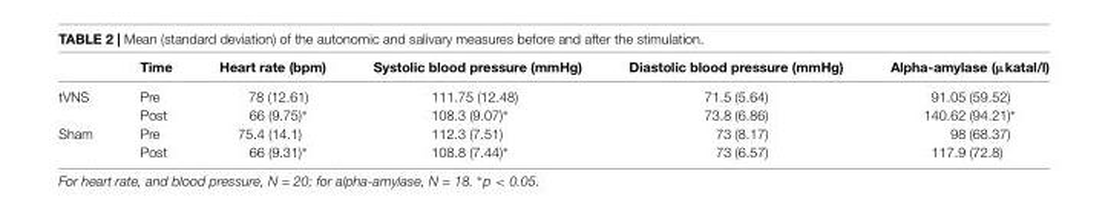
<table><thead><tr><td></td><td>Time</td><td>Heart rate (bpm)</td><td>Systolic blood pressure (mmHg)</td><td>Diastolic blood pressure (mmHg)</td><td>Alpha-amylase (µkatal/l)</td></tr></thead><tbody><tr><td rowspan="2">tVNS</td><td>Pre</td><td>78 (12.61)</td><td>111.75 (12.48)</td><td>71.5 (5.64)</td><td>91.05 (59.52)</td></tr><tr><td>Post</td><td>66 (9.75)∗</td><td>108.3 (9.07)∗</td><td>73.8 (6.86)</td><td>140.62 (94.21)∗</td></tr><tr><td rowspan="2">Sham</td><td>Pre</td><td>75.4 (14.1)</td><td>112.3 (7.51)</td><td>73 (8.17)</td><td>98 (68.37)</td></tr><tr><td>Post</td><td>66 (9.31)∗</td><td>108.8 (7.44)∗</td><td>73 (6.57)</td><td>117.9 (72.8)</td></tr></tbody></table>